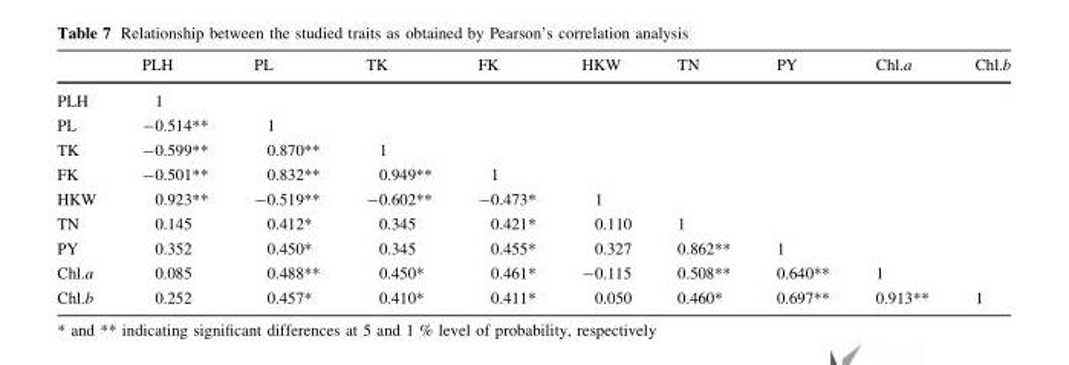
<table><thead><tr><td></td><td>PLH</td><td>PL</td><td>TK</td><td>FK</td><td>HKW</td><td>TN</td><td>PY</td><td>Chl.a</td><td>Chl.b</td></tr></thead><tbody><tr><td>PLH</td><td>1</td><td></td><td></td><td></td><td></td><td></td><td></td><td></td><td></td></tr><tr><td>PL</td><td>-0.514**</td><td>1</td><td></td><td></td><td></td><td></td><td></td><td></td><td></td></tr><tr><td>TK</td><td>-0.599**</td><td>0.870**</td><td>1</td><td></td><td></td><td></td><td></td><td></td><td></td></tr><tr><td>FK</td><td>-0.501**</td><td>0.832**</td><td>0.949**</td><td>1</td><td></td><td></td><td></td><td></td><td></td></tr><tr><td>HKW</td><td>0.923**</td><td>-0.519**</td><td>-0.602**</td><td>-0.473*</td><td>1</td><td></td><td></td><td></td><td></td></tr><tr><td>TN</td><td>0.145</td><td>0.412*</td><td>0.345</td><td>0.421*</td><td>0.110</td><td>1</td><td></td><td></td><td></td></tr><tr><td>PY</td><td>0.352</td><td>0.450*</td><td>0.345</td><td>0.455*</td><td>0.327</td><td>0.862**</td><td>1</td><td></td><td></td></tr><tr><td>Chl.a</td><td>0.085</td><td>0.488**</td><td>0.450*</td><td>0.461*</td><td>-0.115</td><td>0.508**</td><td>0.640**</td><td>1</td><td></td></tr><tr><td>Chl.b</td><td>0.252</td><td>0.457*</td><td>0.410*</td><td>0.411*</td><td>0.050</td><td>0.460*</td><td>0.697**</td><td>0.913**</td><td>1</td></tr></tbody></table>